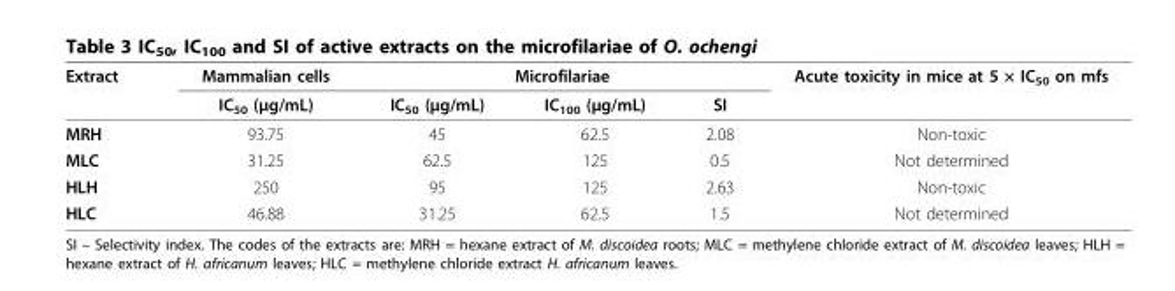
<table><thead><tr><td rowspan="2">Extract</td><td rowspan="2">Mammalian cells IC<sub>50</sub> (μg/mL)</td><td colspan="3">Microfilariae</td><td rowspan="2">Acute toxicity in mice at 5 × IC<sub>50</sub> on mfs</td></tr><tr><td>IC<sub>50</sub> (μg/mL)</td><td>IC<sub>100</sub> (μg/mL)</td><td>SI</td></tr></thead><tbody><tr><td>MRH</td><td>93.75</td><td>45</td><td>62.5</td><td>2.08</td><td>Non-toxic</td></tr><tr><td>MLC</td><td>31.25</td><td>62.5</td><td>125</td><td>0.5</td><td>Not determined</td></tr><tr><td>HLH</td><td>250</td><td>95</td><td>125</td><td>2.63</td><td>Non-toxic</td></tr><tr><td>HLC</td><td>46.88</td><td>31.25</td><td>62.5</td><td>1.5</td><td>Not determined</td></tr></tbody></table>